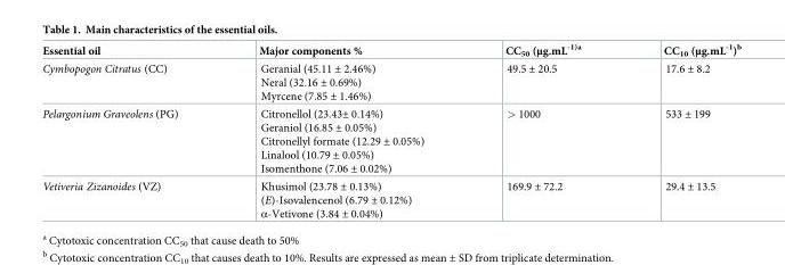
<table><thead><tr><td>Essential oil</td><td>Major components %</td><td>CC<sub>50</sub> (μg.mL<sup>-1)a</sup></td><td>CC<sub>10</sub> (μg.mL<sup>-1</sup>)<sup>b</sup></td></tr></thead><tbody><tr><td>Cymbopogon Citratus (CC)</td><td>Geranial (45.11 ± 2.46%) Neral (32.16 ± 0.69%) Myrcene (7.85 ± 1.46%)</td><td>49.5 ± 20.5</td><td>17.6 ± 8.2</td></tr><tr><td>Pelargonium Graveolens (PG)</td><td>Citronellol (23.43± 0.14%) Geraniol (16.85 ± 0.05%) Citronellyl formate (12.29 ± 0.05%) Linalool (10.79 ± 0.05%) Isomenthone (7.06 ± 0.02%)</td><td>&gt; 1000</td><td>533 ± 199</td></tr><tr><td>Vetiveria Zizanoides (VZ)</td><td>Khusimol (23.78 ± 0.13%) (E)-Isovalencenol (6.79 ± 0.12%) α-Vetivone (3.84 ± 0.04%)</td><td>169.9 ± 72.2</td><td>29.4 ± 13.5</td></tr></tbody></table>